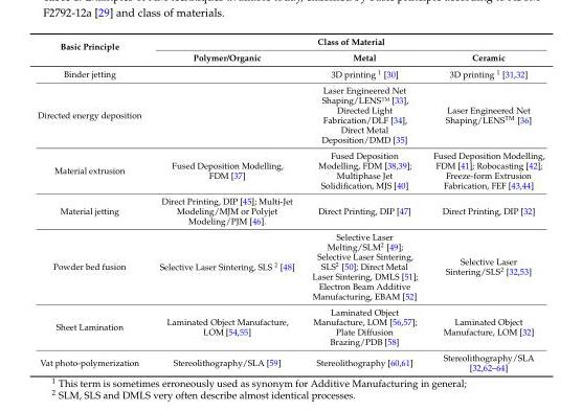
<table><thead><tr><td rowspan="2">Basic Principle</td><td colspan="3">Class of Material</td></tr><tr><td>Polymer/Organic</td><td>Metal</td><td>Ceramic</td></tr></thead><tbody><tr><td>Binder jetting</td><td></td><td>3D printing <sup>1</sup> [30]</td><td>3D printing <sup>1</sup> [31,32]</td></tr><tr><td>Directed energy deposition</td><td></td><td>Laser Engineered Net Shaping/LENS™ [33], Directed Light Fabrication/DLF [34], Direct Metal Deposition/DMD [35]</td><td>Laser Engineered Net Shaping/LENS<sup>TM</sup> [36]</td></tr><tr><td>Material extrusion</td><td>Fused Deposition Modelling, FDM [37]</td><td>Fused Deposition Modelling, FDM [38,39]; Multiphase Jet Solidification, MJS [40]</td><td>Fused Deposition Modelling, FDM [41]; Robocasting [42]; Freeze-form Extrusion Fabrication, FEF [43,44]</td></tr><tr><td>Material jetting</td><td>Direct Printing, DIP [45]; Multi-Jet Modeling/MJM or Polyjet Modeling/PJM [46].</td><td>Direct Printing, DIP [47]</td><td>Direct Printing, DIP [32]</td></tr><tr><td>Powder bed fusion</td><td>Selective Laser Sintering, SLS <sup>2</sup> [48]</td><td>Selective Laser Melting/SLM<sup>2</sup> [49]; Selective Laser Sintering, SLS<sup>2</sup> [50]; Direct Metal Laser Sintering, DMLS [51]; Electron Beam Additive Manufacturing, EBAM [52]</td><td>Selective Laser Sintering/SLS<sup>2</sup> [32,53]</td></tr><tr><td>Sheet Lamination</td><td>Laminated Object Manufacture, LOM [54,55]</td><td>Laminated Object Manufacture, LOM [56,57]; Plate Diffusion Brazing/PDB [58]</td><td>Laminated Object Manufacture, LOM [32]</td></tr><tr><td>Vat photo-polymerization</td><td>Stereolithography/SLA [59]</td><td>Stereolithography [60,61]</td><td>Stereolithography/SLA [32,62–64]</td></tr></tbody></table>